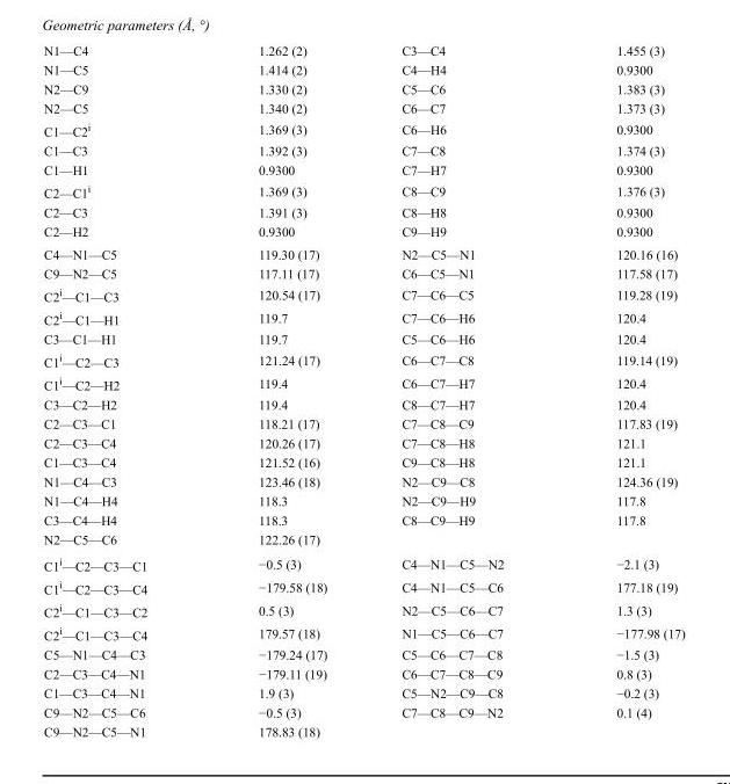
<table><tbody><tr><td>N1—C4</td><td>1.262 (2)</td><td>C3—C4</td><td>1.455 (3)</td></tr><tr><td>N1—C5</td><td>1.414 (2)</td><td>C4—H4</td><td>0.9300</td></tr><tr><td>N2—C9</td><td>1.330 (2)</td><td>C5—C6</td><td>1.383 (3)</td></tr><tr><td>N2—C5</td><td>1.340 (2)</td><td>C6—C7</td><td>1.373 (3)</td></tr><tr><td>C1—C2<sup>i</sup></td><td>1.369 (3)</td><td>C6—H6</td><td>0.9300</td></tr><tr><td>C1—C3</td><td>1.392 (3)</td><td>C7—C8</td><td>1.374 (3)</td></tr><tr><td>C1—H1</td><td>0.9300</td><td>C7—H7</td><td>0.9300</td></tr><tr><td>C2—C1<sup>i</sup></td><td>1.369 (3)</td><td>C8—C9</td><td>1.376 (3)</td></tr><tr><td>C2—C3</td><td>1.391 (3)</td><td>C8—H8</td><td>0.9300</td></tr><tr><td>C2—H2</td><td>0.9300</td><td>C9—H9</td><td>0.9300</td></tr><tr><td>C4—N1—C5</td><td>119.30 (17)</td><td>N2—C5—N1</td><td>120.16 (16)</td></tr><tr><td>C9—N2—C5</td><td>117.11 (17)</td><td>C6—C5—N1</td><td>117.58 (17)</td></tr><tr><td>C2<sup>i</sup>—C1—C3</td><td>120.54 (17)</td><td>C7—C6—C5</td><td>119.28 (19)</td></tr><tr><td>C2<sup>i</sup>—C1—H1</td><td>119.7</td><td>C7—C6—H6</td><td>120.4</td></tr><tr><td>C3—C1—H1</td><td>119.7</td><td>C5—C6—H6</td><td>120.4</td></tr><tr><td>C1<sup>i</sup>—C2—C3</td><td>121.24 (17)</td><td>C6—C7—C8</td><td>119.14 (19)</td></tr><tr><td>C1<sup>i</sup>—C2—H2</td><td>119.4</td><td>C6—C7—H7</td><td>120.4</td></tr><tr><td>C3—C2—H2</td><td>119.4</td><td>C8—C7—H7</td><td>120.4</td></tr><tr><td>C2—C3—C1</td><td>118.21 (17)</td><td>C7—C8—C9</td><td>117.83 (19)</td></tr><tr><td>C2—C3—C4</td><td>120.26 (17)</td><td>C7—C8—H8</td><td>121.1</td></tr><tr><td>C1—C3—C4</td><td>121.52 (16)</td><td>C9—C8—H8</td><td>121.1</td></tr><tr><td>N1—C4—C3</td><td>123.46 (18)</td><td>N2—C9—C8</td><td>124.36 (19)</td></tr><tr><td>N1—C4—H4</td><td>118.3</td><td>N2—C9—H9</td><td>117.8</td></tr><tr><td>C3—C4—H4</td><td>118.3</td><td>C8—C9—H9</td><td>117.8</td></tr><tr><td>N2—C5—C6</td><td>122.26 (17)</td><td></td><td></td></tr><tr><td>C1<sup>i</sup>—C2—C3—C1</td><td>−0.5 (3)</td><td>C4—N1—C5—N2</td><td>−2.1 (3)</td></tr><tr><td>C1<sup>i</sup>—C2—C3—C4</td><td>−179.58 (18)</td><td>C4—N1—C5—C6</td><td>177.18 (19)</td></tr><tr><td>C2<sup>i</sup>—C1—C3—C2</td><td>0.5 (3)</td><td>N2—C5—C6—C7</td><td>1.3 (3)</td></tr><tr><td>C2<sup>i</sup>—C1—C3—C4</td><td>179.57 (18)</td><td>N1—C5—C6—C7</td><td>−177.98 (17)</td></tr><tr><td>C5—N1—C4—C3</td><td>−179.24 (17)</td><td>C5—C6—C7—C8</td><td>−1.5 (3)</td></tr><tr><td>C2—C3—C4—N1</td><td>−179.11 (19)</td><td>C6—C7—C8—C9</td><td>0.8 (3)</td></tr><tr><td>C1—C3—C4—N1</td><td>1.9 (3)</td><td>C5—N2—C9—C8</td><td>−0.2 (3)</td></tr><tr><td>C9—N2—C5—C6</td><td>−0.5 (3)</td><td>C7—C8—C9—N2</td><td>0.1 (4)</td></tr><tr><td>C9—N2—C5—N1</td><td>178.83 (18)</td><td></td><td></td></tr></tbody></table>